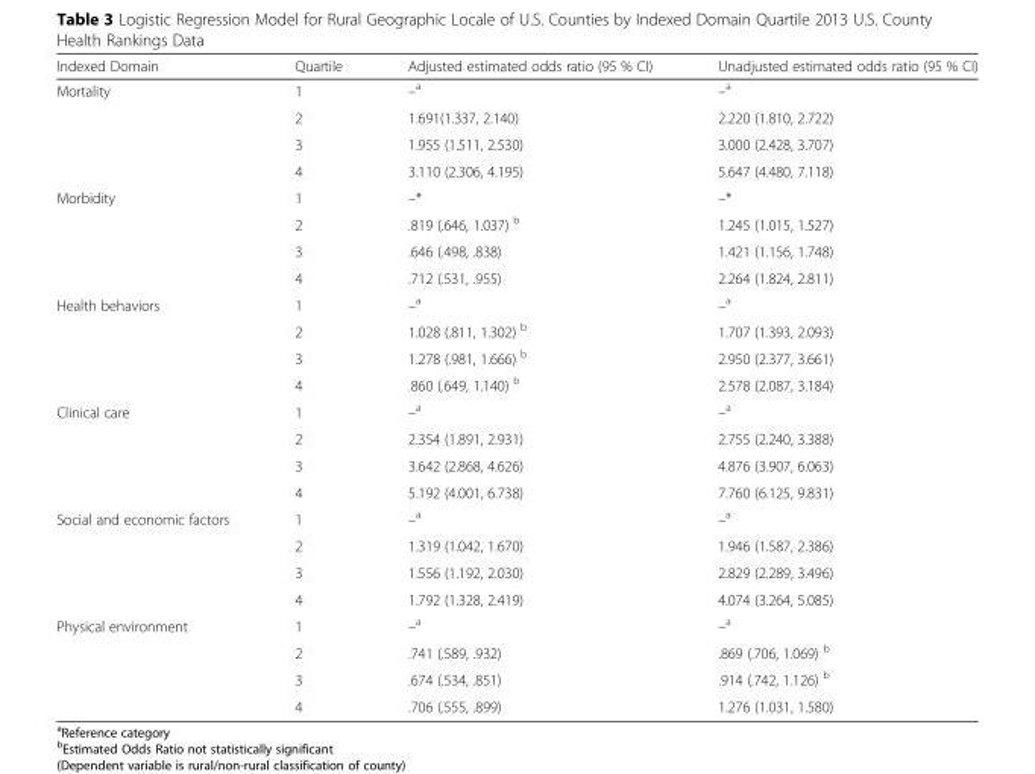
<table><thead><tr><td>Indexed Domain</td><td>Quartile</td><td>Adjusted estimated odds ratio (95 % CI)</td><td>Unadjusted estimated odds ratio (95 % CI)</td></tr></thead><tbody><tr><td rowspan="4">Mortality</td><td>1</td><td>–a</td><td>–a</td></tr><tr><td>2</td><td>1.691(1.337, 2.140)</td><td>2.220 (1.810, 2.722)</td></tr><tr><td>3</td><td>1.955 (1.511, 2.530)</td><td>3.000 (2.428, 3.707)</td></tr><tr><td>4</td><td>3.110 (2.306, 4.195)</td><td>5.647 (4.480, 7.118)</td></tr><tr><td rowspan="4">Morbidity</td><td>1</td><td>–*</td><td>–*</td></tr><tr><td>2</td><td>.819 (.646, 1.037) <sup>b</sup></td><td>1.245 (1.015, 1.527)</td></tr><tr><td>3</td><td>.646 (.498, .838)</td><td>1.421 (1.156, 1.748)</td></tr><tr><td>4</td><td>.712 (.531, .955)</td><td>2.264 (1.824, 2.811)</td></tr><tr><td rowspan="4">Health behaviors</td><td>1</td><td>–a</td><td>–a</td></tr><tr><td>2</td><td>1.028 (.811, 1.302) <sup>b</sup></td><td>1.707 (1.393, 2.093)</td></tr><tr><td>3</td><td>1.278 (.981, 1.666) <sup>b</sup></td><td>2.950 (2.377, 3.661)</td></tr><tr><td>4</td><td>.860 (.649, 1.140) <sup>b</sup></td><td>2.578 (2.087, 3.184)</td></tr><tr><td rowspan="4">Clinical care</td><td>1</td><td>–a</td><td>–a</td></tr><tr><td>2</td><td>2.354 (1.891, 2.931)</td><td>2.755 (2.240, 3.388)</td></tr><tr><td>3</td><td>3.642 (2.868, 4.626)</td><td>4.876 (3.907, 6.063)</td></tr><tr><td>4</td><td>5.192 (4.001, 6.738)</td><td>7.760 (6.125, 9.831)</td></tr><tr><td rowspan="4">Social and economic factors</td><td>1</td><td>–a</td><td>–a</td></tr><tr><td>2</td><td>1.319 (1.042, 1.670)</td><td>1.946 (1.587, 2.386)</td></tr><tr><td>3</td><td>1.556 (1.192, 2.030)</td><td>2.829 (2.289, 3.496)</td></tr><tr><td>4</td><td>1.792 (1.328, 2.419)</td><td>4.074 (3.264, 5.085)</td></tr><tr><td rowspan="4">Physical environment</td><td>1</td><td>–a</td><td>–a</td></tr><tr><td>2</td><td>.741 (.589, .932)</td><td>.869 (.706, 1.069) <sup>b</sup></td></tr><tr><td>3</td><td>.674 (.534, .851)</td><td>.914 (.742, 1.126) <sup>b</sup></td></tr><tr><td>4</td><td>.706 (.555, .899)</td><td>1.276 (1.031, 1.580)</td></tr></tbody></table>